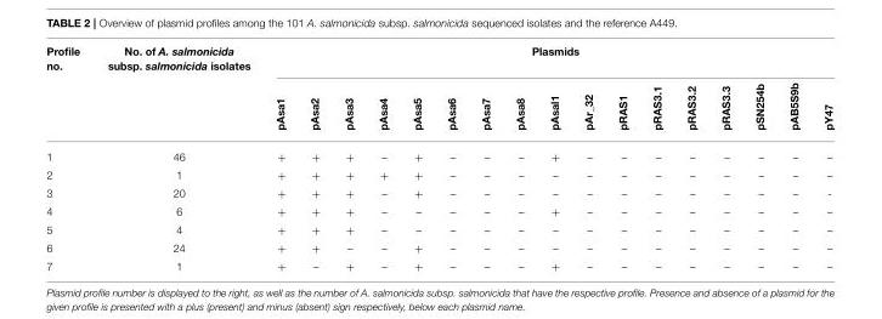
<table><thead><tr><td rowspan="2">Profile no.</td><td rowspan="2">No. of A. salmonicida subsp. salmonicida isolates</td><td colspan="17">Plasmids</td></tr><tr><td>pAsa1</td><td>pAsa2</td><td>pAsa3</td><td>pAsa4</td><td>pAsa5</td><td>pAsa6</td><td>pAsa7</td><td>pAsa8</td><td>pAsal1</td><td>pAr_32</td><td>pRAS1</td><td>pRAS3.1</td><td>pRAS3.2</td><td>pRAS3.3</td><td>pSN254b</td><td>pAB5S9b</td><td>pY47</td></tr></thead><tbody><tr><td>1</td><td>46</td><td>+</td><td>+</td><td>+</td><td>–</td><td>+</td><td>–</td><td>–</td><td>–</td><td>+</td><td>–</td><td>–</td><td>–</td><td>–</td><td>–</td><td>–</td><td>–</td><td>–</td></tr><tr><td>2</td><td>1</td><td>+</td><td>+</td><td>+</td><td>+</td><td>+</td><td>–</td><td>–</td><td>–</td><td>–</td><td>–</td><td>–</td><td>–</td><td>–</td><td>–</td><td>–</td><td>–</td><td>–</td></tr><tr><td>3</td><td>20</td><td>+</td><td>+</td><td>+</td><td>–</td><td>+</td><td>–</td><td>–</td><td>–</td><td>–</td><td>–</td><td>–</td><td>–</td><td>–</td><td>–</td><td>–</td><td>–</td><td>-</td></tr><tr><td>4</td><td>6</td><td>+</td><td>+</td><td>+</td><td>–</td><td>–</td><td>–</td><td>–</td><td>–</td><td>+</td><td>–</td><td>–</td><td>–</td><td>–</td><td>–</td><td>–</td><td>–</td><td>–</td></tr><tr><td>5</td><td>4</td><td>+</td><td>+</td><td>+</td><td>–</td><td>–</td><td>–</td><td>–</td><td>–</td><td>–</td><td>–</td><td>–</td><td>–</td><td>–</td><td>–</td><td>–</td><td>–</td><td>–</td></tr><tr><td>6</td><td>24</td><td>+</td><td>+</td><td>–</td><td>–</td><td>+</td><td>–</td><td>–</td><td>–</td><td>–</td><td>–</td><td>–</td><td>–</td><td>–</td><td>–</td><td>–</td><td>–</td><td>–</td></tr><tr><td>7</td><td>1</td><td>+</td><td>–</td><td>+</td><td>–</td><td>+</td><td>–</td><td>–</td><td>–</td><td>+</td><td>–</td><td>–</td><td>–</td><td>–</td><td>–</td><td>–</td><td>–</td><td>–</td></tr></tbody></table>